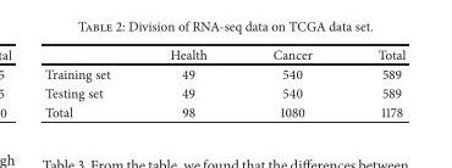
<table><thead><tr><td></td><td>Health</td><td>Cancer</td><td>Total</td></tr></thead><tbody><tr><td>Training set</td><td>49</td><td>540</td><td>589</td></tr><tr><td>Testing set</td><td>49</td><td>540</td><td>589</td></tr><tr><td>Total</td><td>98</td><td>1080</td><td>1178</td></tr></tbody></table>